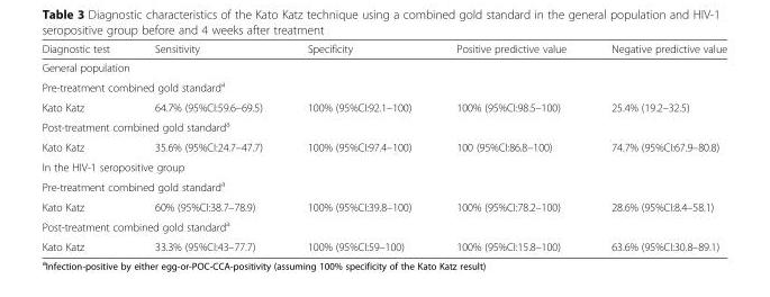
<table><thead><tr><td>Diagnostic test</td><td>Sensitivity</td><td>Specificity</td><td>Positive predictive value</td><td>Negative predictive value</td></tr></thead><tbody><tr><td colspan="5">General population</td></tr><tr><td colspan="5">Pre-treatment combined gold standard<sup>a</sup></td></tr><tr><td>Kato Katz</td><td>64.7% (95%CI:59.6–69.5)</td><td>100% (95%CI:92.1–100)</td><td>100% (95%CI:98.5–100)</td><td>25.4% (19.2–32.5)</td></tr><tr><td colspan="5">Post-treatment combined gold standard<sup>a</sup></td></tr><tr><td>Kato Katz</td><td>35.6% (95%CI:24.7–47.7)</td><td>100% (95%CI:97.4–100)</td><td>100 (95%CI:86.8–100)</td><td>74.7% (95%CI:67.9–80.8)</td></tr><tr><td colspan="5">In the HIV-1 seropositive group</td></tr><tr><td colspan="5">Pre-treatment combined gold standard<sup>a</sup></td></tr><tr><td>Kato Katz</td><td>60% (95%CI:38.7–78.9)</td><td>100% (95%CI:39.8–100)</td><td>100% (95%CI:78.2–100)</td><td>28.6% (95%CI:8.4–58.1)</td></tr><tr><td colspan="5">Post-treatment combined gold standard<sup>a</sup></td></tr><tr><td>Kato Katz</td><td>33.3% (95%CI:43–77.7)</td><td>100% (95%CI:59–100)</td><td>100% (95%CI:15.8–100)</td><td>63.6% (95%CI:30.8–89.1)</td></tr></tbody></table>